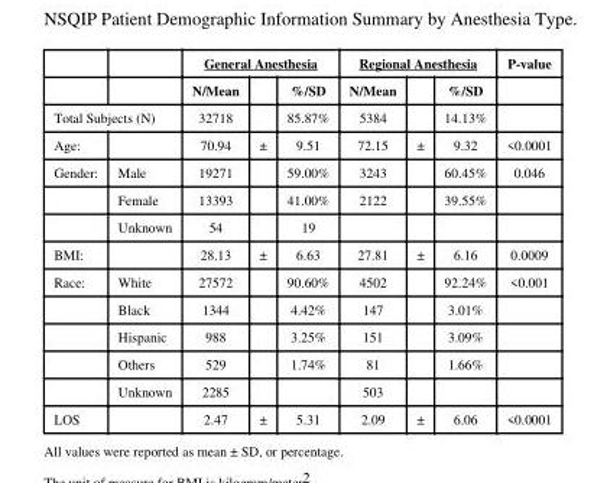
<table><thead><tr><td rowspan="2"></td><td rowspan="2"></td><td colspan="3">General Anesthesia</td><td colspan="3">Regional Anesthesia</td><td rowspan="2">P-value</td></tr><tr><td>N/Mean</td><td></td><td>%/SD</td><td>N/Mean</td><td></td><td>%/SD</td></tr></thead><tbody><tr><td colspan="2">Total Subjects (N)</td><td>32718</td><td></td><td>85.87%</td><td>5384</td><td></td><td>14.13%</td><td></td></tr><tr><td>Age:</td><td></td><td>70.94</td><td>±</td><td>9.51</td><td>72.15</td><td>±</td><td>9.32</td><td>&lt;0.0001</td></tr><tr><td rowspan="3">Gender:</td><td>Male</td><td>19271</td><td></td><td>59.00%</td><td>3243</td><td></td><td>60.45%</td><td>0.046</td></tr><tr><td>Female</td><td>13393</td><td></td><td>41.00%</td><td>2122</td><td></td><td>39.55%</td><td></td></tr><tr><td>Unknown</td><td>54</td><td></td><td>19</td><td></td><td></td><td></td><td></td></tr><tr><td>BMI:</td><td></td><td>28.13</td><td>±</td><td>6.63</td><td>27.81</td><td>±</td><td>6.16</td><td>0.0009</td></tr><tr><td rowspan="5">Race:</td><td>White</td><td>27572</td><td></td><td>90.60%</td><td>4502</td><td></td><td>92.24%</td><td>&lt;0.001</td></tr><tr><td>Black</td><td>1344</td><td></td><td>4.42%</td><td>147</td><td></td><td>3.01%</td><td></td></tr><tr><td>Hispanic</td><td>988</td><td></td><td>3.25%</td><td>151</td><td></td><td>3.09%</td><td></td></tr><tr><td>Others</td><td>529</td><td></td><td>1.74%</td><td>81</td><td></td><td>1.66%</td><td></td></tr><tr><td>Unknown</td><td>2285</td><td></td><td></td><td>503</td><td></td><td></td><td></td></tr><tr><td>LOS</td><td></td><td>2.47</td><td>±</td><td>5.31</td><td>2.09</td><td>±</td><td>6.06</td><td>&lt;0.0001</td></tr></tbody></table>